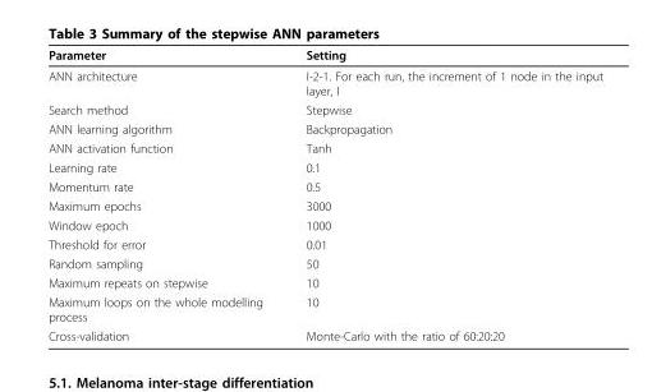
<table><thead><tr><td>Parameter</td><td>Setting</td></tr></thead><tbody><tr><td>ANN architecture</td><td>I-2-1. For each run, the increment of 1 node in the input layer, I</td></tr><tr><td>Search method</td><td>Stepwise</td></tr><tr><td>ANN learning algorithm</td><td>Backpropagation</td></tr><tr><td>ANN activation function</td><td>Tanh</td></tr><tr><td>Learning rate</td><td>0.1</td></tr><tr><td>Momentum rate</td><td>0.5</td></tr><tr><td>Maximum epochs</td><td>3000</td></tr><tr><td>Window epoch</td><td>1000</td></tr><tr><td>Threshold for error</td><td>0.01</td></tr><tr><td>Random sampling</td><td>50</td></tr><tr><td>Maximum repeats on stepwise</td><td>10</td></tr><tr><td>Maximum loops on the whole modelling process</td><td>10</td></tr><tr><td>Cross-validation</td><td>Monte-Carlo with the ratio of 60:20:20</td></tr></tbody></table>